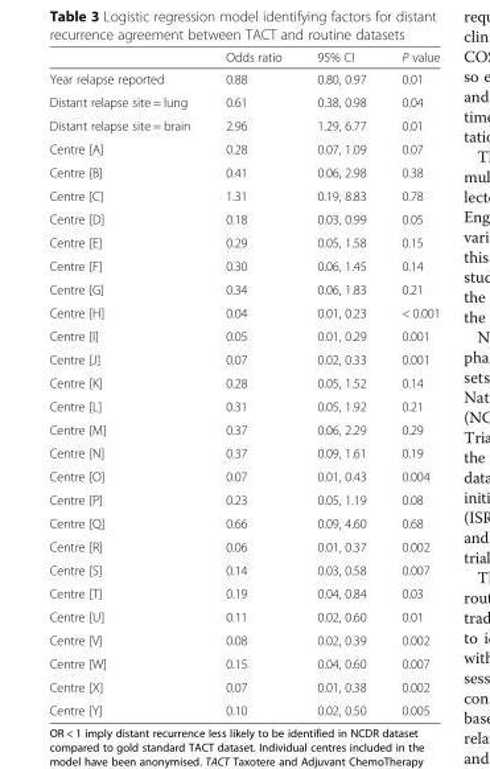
<table><thead><tr><td></td><td>Odds ratio</td><td>95% CI</td><td>P value</td></tr></thead><tbody><tr><td>Year relapse reported</td><td>0.88</td><td>0.80, 0.97</td><td>0.01</td></tr><tr><td>Distant relapse site = lung</td><td>0.61</td><td>0.38, 0.98</td><td>0.04</td></tr><tr><td>Distant relapse site = brain</td><td>2.96</td><td>1.29, 6.77</td><td>0.01</td></tr><tr><td>Centre [A]</td><td>0.28</td><td>0.07, 1.09</td><td>0.07</td></tr><tr><td>Centre [B]</td><td>0.41</td><td>0.06, 2.98</td><td>0.38</td></tr><tr><td>Centre [C]</td><td>1.31</td><td>0.19, 8.83</td><td>0.78</td></tr><tr><td>Centre [D]</td><td>0.18</td><td>0.03, 0.99</td><td>0.05</td></tr><tr><td>Centre [E]</td><td>0.29</td><td>0.05, 1.58</td><td>0.15</td></tr><tr><td>Centre [F]</td><td>0.30</td><td>0.06, 1.45</td><td>0.14</td></tr><tr><td>Centre [G]</td><td>0.34</td><td>0.06, 1.83</td><td>0.21</td></tr><tr><td>Centre [H]</td><td>0.04</td><td>0.01, 0.23</td><td>&lt; 0.001</td></tr><tr><td>Centre [I]</td><td>0.05</td><td>0.01, 0.29</td><td>0.001</td></tr><tr><td>Centre [J]</td><td>0.07</td><td>0.02, 0.33</td><td>0.001</td></tr><tr><td>Centre [K]</td><td>0.28</td><td>0.05, 1.52</td><td>0.14</td></tr><tr><td>Centre [L]</td><td>0.31</td><td>0.05, 1.92</td><td>0.21</td></tr><tr><td>Centre [M]</td><td>0.37</td><td>0.06, 2.29</td><td>0.29</td></tr><tr><td>Centre [N]</td><td>0.37</td><td>0.09, 1.61</td><td>0.19</td></tr><tr><td>Centre [O]</td><td>0.07</td><td>0.01, 0.43</td><td>0.004</td></tr><tr><td>Centre [P]</td><td>0.23</td><td>0.05, 1.19</td><td>0.08</td></tr><tr><td>Centre [Q]</td><td>0.66</td><td>0.09, 4.60</td><td>0.68</td></tr><tr><td>Centre [R]</td><td>0.06</td><td>0.01, 0.37</td><td>0.002</td></tr><tr><td>Centre [S]</td><td>0.14</td><td>0.03, 0.58</td><td>0.007</td></tr><tr><td>Centre [T]</td><td>0.19</td><td>0.04, 0.84</td><td>0.03</td></tr><tr><td>Centre [U]</td><td>0.11</td><td>0.02, 0.60</td><td>0.01</td></tr><tr><td>Centre [V]</td><td>0.08</td><td>0.02, 0.39</td><td>0.002</td></tr><tr><td>Centre [W]</td><td>0.15</td><td>0.04, 0.60</td><td>0.007</td></tr><tr><td>Centre [X]</td><td>0.07</td><td>0.01, 0.38</td><td>0.002</td></tr><tr><td>Centre [Y]</td><td>0.10</td><td>0.02, 0.50</td><td>0.005</td></tr></tbody></table>